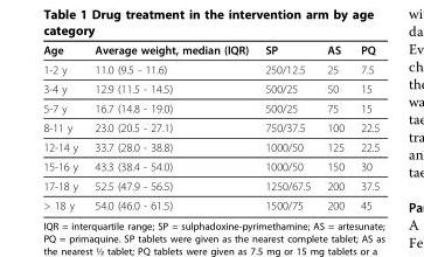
<table><thead><tr><td>Age</td><td>Average weight, median (IQR)</td><td>SP</td><td>AS</td><td>PQ</td></tr></thead><tbody><tr><td>1-2 y</td><td>11.0 (9.5 - 11.6)</td><td>250/12.5</td><td>25</td><td>7.5</td></tr><tr><td>3-4 y</td><td>12.9 (11.5 - 14.5)</td><td>500/25</td><td>50</td><td>15</td></tr><tr><td>5-7 y</td><td>16.7 (14.8 - 19.0)</td><td>500/25</td><td>75</td><td>15</td></tr><tr><td>8-11 y</td><td>23.0 (20.5 - 27.1)</td><td>750/37.5</td><td>100</td><td>22.5</td></tr><tr><td>12-14 y</td><td>33.7 (28.0 - 38.8)</td><td>1000/50</td><td>125</td><td>22.5</td></tr><tr><td>15-16 y</td><td>43.3 (38.4 - 54.0)</td><td>1000/50</td><td>150</td><td>30</td></tr><tr><td>17-18 y</td><td>52.5 (47.9 - 56.5)</td><td>1250/67.5</td><td>200</td><td>37.5</td></tr><tr><td>&gt; 18 y</td><td>54.0 (46.0 - 61.5)</td><td>1500/75</td><td>200</td><td>45</td></tr></tbody></table>